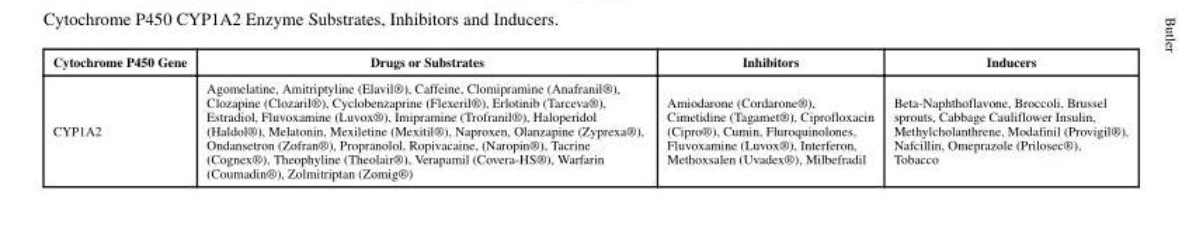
<table><thead><tr><td>Cytochrome P450 Gene</td><td>Drugs or Substrates</td><td>Inhibitors</td><td>Inducers</td></tr></thead><tbody><tr><td>CYP1A2</td><td>Agomelatine, Amitriptyline (Elavil®), Caffeine, Clomipramine (Anafranil®), Clozapine (Clozaril®), Cyclobenzaprine (Flexeril®), Erlotinib (Tarceva®), Estradiol, Fluvoxamine (Luvox®), Imipramine (Trofranil®), Haloperidol (Haldol®), Melatonin, Mexiletine (Mexitil®), Naproxen, Olanzapine (Zyprexa®), Ondansetron (Zofran®), Propranolol, Ropivacaine, (Naropin®), Tacrine (Cognex®), Theophyline (Theolair®), Verapamil (Covera-HS®), Warfarin (Coumadin®), Zolmitriptan (Zomig®)</td><td>Amiodarone (Cordarone®), Cimetidine (Tagamet®), Ciprofloxacin (Cipro®), Cumin, Fluroquinolones, Fluvoxamine (Luvox®), Interferon, Methoxsalen (Uvadex®), Milbefradil</td><td>Beta-Naphthoflavone, Broccoli, Brussel sprouts, Cabbage Cauliflower Insulin, Methylcholanthrene, Modafinil (Provigil®), Nafcillin, Omeprazole (Prilosec®), Tobacco</td></tr></tbody></table>